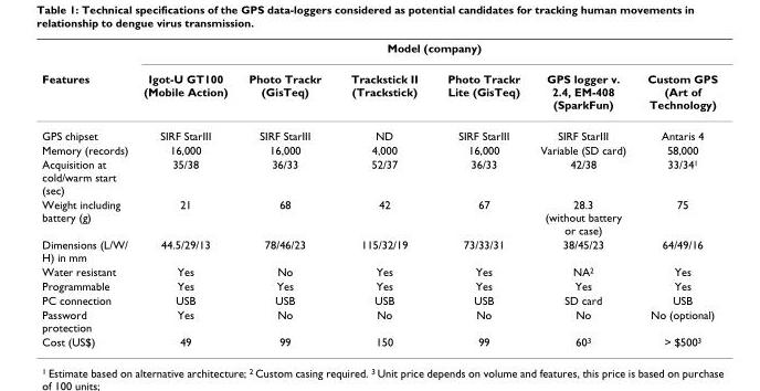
<table><thead><tr><td rowspan="2">Features</td><td colspan="6">Model (company)</td></tr><tr><td>Igot-U GT100 (Mobile Action)</td><td>Photo Trackr (GisTeq)</td><td>Trackstick II (Trackstick)</td><td>Photo Trackr Lite (GisTeq)</td><td>GPS logger v. 2.4, EM-408 (SparkFun)</td><td>Custom GPS (Art of Technology)</td></tr></thead><tbody><tr><td>GPS chipset</td><td>SIRF StarIII</td><td>SIRF StarIII</td><td>ND</td><td>SIRF StarIII</td><td>SIRF StarIII</td><td>Antaris 4</td></tr><tr><td>Memory (records)</td><td>16,000</td><td>16,000</td><td>4,000</td><td>16,000</td><td>Variable (SD card)</td><td>58,000</td></tr><tr><td>Acquisition at cold/warm start (sec)</td><td>35/38</td><td>36/33</td><td>52/37</td><td>36/33</td><td>42/38</td><td>33/34<sup>1</sup></td></tr><tr><td>Weight including battery (g)</td><td>21</td><td>68</td><td>42</td><td>67</td><td>28.3 (without battery or case)</td><td>75</td></tr><tr><td>Dimensions (L/W/ H) in mm</td><td>44.5/29/13</td><td>78/46/23</td><td>115/32/19</td><td>73/33/31</td><td>38/45/23</td><td>64/49/16</td></tr><tr><td>Water resistant</td><td>Yes</td><td>No</td><td>Yes</td><td>Yes</td><td>NA<sup>2</sup></td><td>Yes</td></tr><tr><td>Programmable</td><td>Yes</td><td>Yes</td><td>Yes</td><td>Yes</td><td>Yes</td><td>Yes</td></tr><tr><td>PC connection</td><td>USB</td><td>USB</td><td>USB</td><td>USB</td><td>SD card</td><td>USB</td></tr><tr><td>Password protection</td><td>Yes</td><td>No</td><td>No</td><td>No</td><td>No</td><td>No (optional)</td></tr><tr><td>Cost (US$)</td><td>49</td><td>99</td><td>150</td><td>99</td><td>60<sup>3</sup></td><td>&gt; $500<sup>3</sup></td></tr></tbody></table>